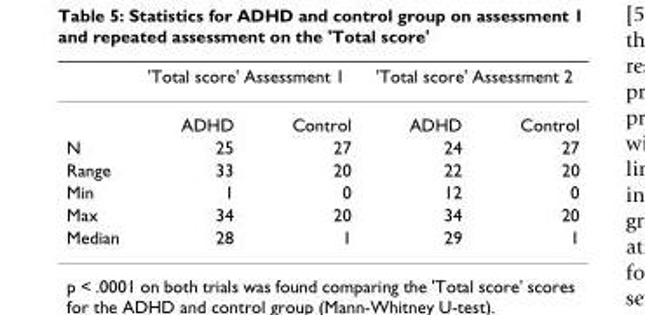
<table><thead><tr><td rowspan="2"></td><td colspan="2">&#x27;Total score&#x27; Assessment 1</td><td colspan="2">&#x27;Total score&#x27; Assessment 2</td></tr><tr><td>ADHD</td><td>Control</td><td>ADHD</td><td>Control</td></tr></thead><tbody><tr><td>N</td><td>25</td><td>27</td><td>24</td><td>27</td></tr><tr><td>Range</td><td>33</td><td>20</td><td>22</td><td>20</td></tr><tr><td>Min</td><td>1</td><td>0</td><td>12</td><td>0</td></tr><tr><td>Max</td><td>34</td><td>20</td><td>34</td><td>20</td></tr><tr><td>Median</td><td>28</td><td>1</td><td>29</td><td>1</td></tr></tbody></table>